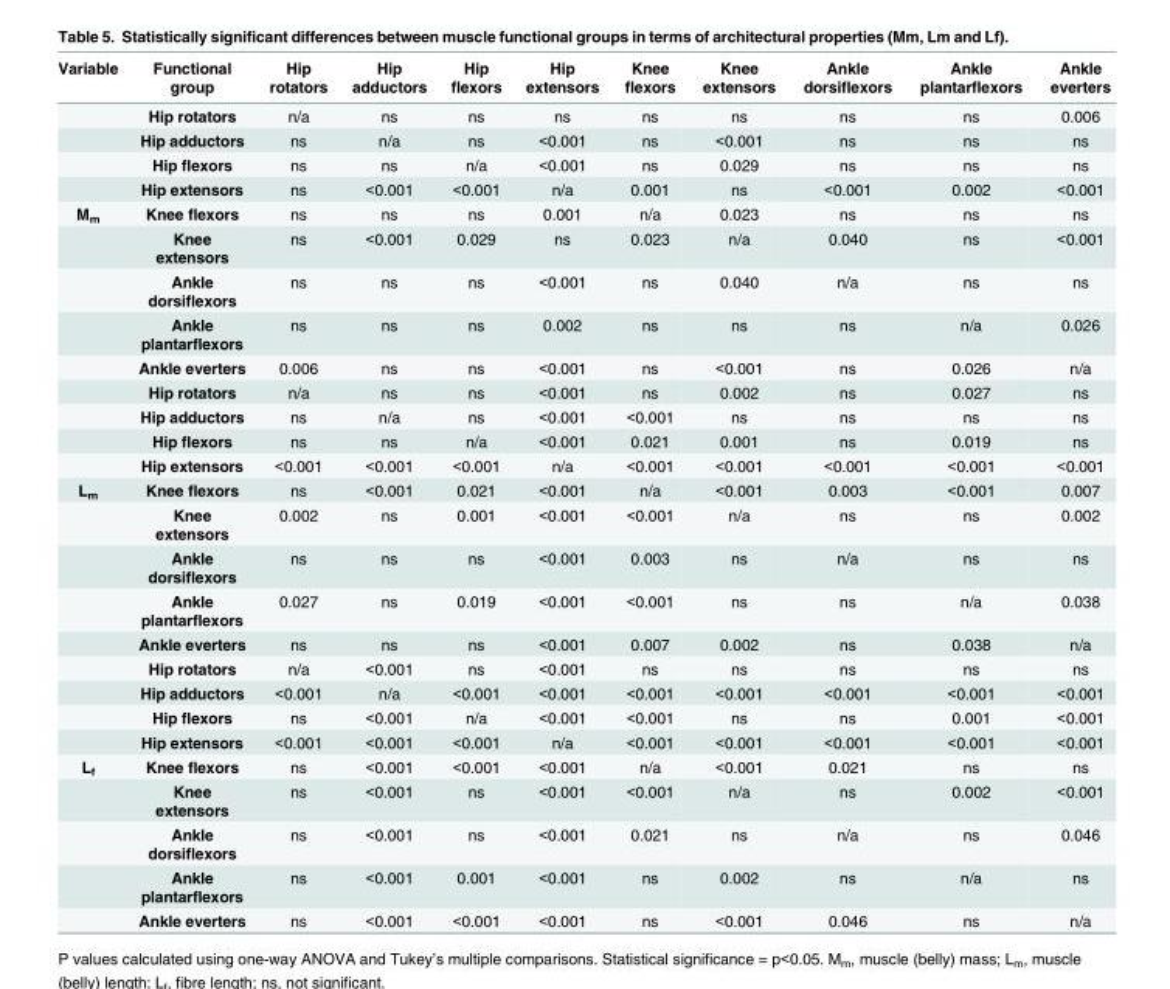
<table><thead><tr><td>Variable</td><td>Functional group</td><td>Hip rotators</td><td>Hip adductors</td><td>Hip flexors</td><td>Hip extensors</td><td>Knee flexors</td><td>Knee extensors</td><td>Ankle dorsiflexors</td><td>Ankle plantarflexors</td><td>Ankle everters</td></tr></thead><tbody><tr><td></td><td>Hip rotators</td><td>n/a</td><td>ns</td><td>ns</td><td>ns</td><td>ns</td><td>ns</td><td>ns</td><td>ns</td><td>0.006</td></tr><tr><td></td><td>Hip adductors</td><td>ns</td><td>n/a</td><td>ns</td><td>&lt;0.001</td><td>ns</td><td>&lt;0.001</td><td>ns</td><td>ns</td><td>ns</td></tr><tr><td></td><td>Hip flexors</td><td>ns</td><td>ns</td><td>n/a</td><td>&lt;0.001</td><td>ns</td><td>0.029</td><td>ns</td><td>ns</td><td>ns</td></tr><tr><td></td><td>Hip extensors</td><td>ns</td><td>&lt;0.001</td><td>&lt;0.001</td><td>n/a</td><td>0.001</td><td>ns</td><td>&lt;0.001</td><td>0.002</td><td>&lt;0.001</td></tr><tr><td rowspan="9">M<sub>m</sub></td><td>Knee flexors</td><td>ns</td><td>ns</td><td>ns</td><td>0.001</td><td>n/a</td><td>0.023</td><td>ns</td><td>ns</td><td>ns</td></tr><tr><td>Knee extensors</td><td>ns</td><td>&lt;0.001</td><td>0.029</td><td>ns</td><td>0.023</td><td>n/a</td><td>0.040</td><td>ns</td><td>&lt;0.001</td></tr><tr><td>Ankle dorsiflexors</td><td>ns</td><td>ns</td><td>ns</td><td>&lt;0.001</td><td>ns</td><td>0.040</td><td>n/a</td><td>ns</td><td>ns</td></tr><tr><td>Ankle plantarflexors</td><td>ns</td><td>ns</td><td>ns</td><td>0.002</td><td>ns</td><td>ns</td><td>ns</td><td>n/a</td><td>0.026</td></tr><tr><td>Ankle everters</td><td>0.006</td><td>ns</td><td>ns</td><td>&lt;0.001</td><td>ns</td><td>&lt;0.001</td><td>ns</td><td>0.026</td><td>n/a</td></tr><tr><td>Hip rotators</td><td>n/a</td><td>ns</td><td>ns</td><td>&lt;0.001</td><td>ns</td><td>0.002</td><td>ns</td><td>0.027</td><td>ns</td></tr><tr><td>Hip adductors</td><td>ns</td><td>n/a</td><td>ns</td><td>&lt;0.001</td><td>&lt;0.001</td><td>ns</td><td>ns</td><td>ns</td><td>ns</td></tr><tr><td>Hip flexors</td><td>ns</td><td>ns</td><td>n/a</td><td>&lt;0.001</td><td>0.021</td><td>0.001</td><td>ns</td><td>0.019</td><td>ns</td></tr><tr><td>Hip extensors</td><td>&lt;0.001</td><td>&lt;0.001</td><td>&lt;0.001</td><td>n/a</td><td>&lt;0.001</td><td>&lt;0.001</td><td>&lt;0.001</td><td>&lt;0.001</td><td>&lt;0.001</td></tr><tr><td rowspan="9">L<sub>m</sub></td><td>Knee flexors</td><td>ns</td><td>&lt;0.001</td><td>0.021</td><td>&lt;0.001</td><td>n/a</td><td>&lt;0.001</td><td>0.003</td><td>&lt;0.001</td><td>0.007</td></tr><tr><td>Knee extensors</td><td>0.002</td><td>ns</td><td>0.001</td><td>&lt;0.001</td><td>&lt;0.001</td><td>n/a</td><td>ns</td><td>ns</td><td>0.002</td></tr><tr><td>Ankle dorsiflexors</td><td>ns</td><td>ns</td><td>ns</td><td>&lt;0.001</td><td>0.003</td><td>ns</td><td>n/a</td><td>ns</td><td>ns</td></tr><tr><td>Ankle plantarflexors</td><td>0.027</td><td>ns</td><td>0.019</td><td>&lt;0.001</td><td>&lt;0.001</td><td>ns</td><td>ns</td><td>n/a</td><td>0.038</td></tr><tr><td>Ankle everters</td><td>ns</td><td>ns</td><td>ns</td><td>&lt;0.001</td><td>0.007</td><td>0.002</td><td>ns</td><td>0.038</td><td>n/a</td></tr><tr><td>Hip rotators</td><td>n/a</td><td>&lt;0.001</td><td>ns</td><td>&lt;0.001</td><td>ns</td><td>ns</td><td>ns</td><td>ns</td><td>ns</td></tr><tr><td>Hip adductors</td><td>&lt;0.001</td><td>n/a</td><td>&lt;0.001</td><td>&lt;0.001</td><td>&lt;0.001</td><td>&lt;0.001</td><td>&lt;0.001</td><td>&lt;0.001</td><td>&lt;0.001</td></tr><tr><td>Hip flexors</td><td>ns</td><td>&lt;0.001</td><td>n/a</td><td>&lt;0.001</td><td>&lt;0.001</td><td>ns</td><td>ns</td><td>0.001</td><td>&lt;0.001</td></tr><tr><td>Hip extensors</td><td>&lt;0.001</td><td>&lt;0.001</td><td>&lt;0.001</td><td>n/a</td><td>&lt;0.001</td><td>&lt;0.001</td><td>&lt;0.001</td><td>&lt;0.001</td><td>&lt;0.001</td></tr><tr><td rowspan="5">L<sub>f</sub></td><td>Knee flexors</td><td>ns</td><td>&lt;0.001</td><td>&lt;0.001</td><td>&lt;0.001</td><td>n/a</td><td>&lt;0.001</td><td>0.021</td><td>ns</td><td>ns</td></tr><tr><td>Knee extensors</td><td>ns</td><td>&lt;0.001</td><td>ns</td><td>&lt;0.001</td><td>&lt;0.001</td><td>n/a</td><td>ns</td><td>0.002</td><td>&lt;0.001</td></tr><tr><td>Ankle dorsiflexors</td><td>ns</td><td>&lt;0.001</td><td>ns</td><td>&lt;0.001</td><td>0.021</td><td>ns</td><td>n/a</td><td>ns</td><td>0.046</td></tr><tr><td>Ankle plantarflexors</td><td>ns</td><td>&lt;0.001</td><td>0.001</td><td>&lt;0.001</td><td>ns</td><td>0.002</td><td>ns</td><td>n/a</td><td>ns</td></tr><tr><td>Ankle everters</td><td>ns</td><td>&lt;0.001</td><td>&lt;0.001</td><td>&lt;0.001</td><td>ns</td><td>&lt;0.001</td><td>0.046</td><td>ns</td><td>n/a</td></tr></tbody></table>